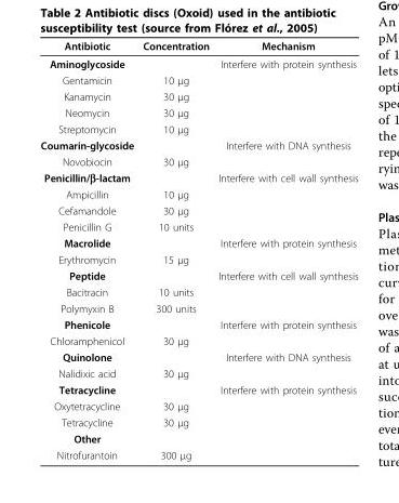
<table><thead><tr><td>Antibiotic</td><td>Concentration</td><td>Mechanism</td></tr></thead><tbody><tr><td>Aminoglycoside</td><td></td><td>Interfere with protein synthesis</td></tr><tr><td>Gentamicin</td><td>10 μg</td><td></td></tr><tr><td>Kanamycin</td><td>30 μg</td><td></td></tr><tr><td>Neomycin</td><td>30 μg</td><td></td></tr><tr><td>Streptomycin</td><td>10 μg</td><td></td></tr><tr><td>Coumarin-glycoside</td><td></td><td>Interfere with DNA synthesis</td></tr><tr><td>Novobiocin</td><td>30 μg</td><td></td></tr><tr><td>Penicillin/β-lactam</td><td></td><td>Interfere with cell wall synthesis</td></tr><tr><td>Ampicillin</td><td>10 μg</td><td></td></tr><tr><td>Cefamandole</td><td>30 μg</td><td></td></tr><tr><td>Penicillin G</td><td>10 units</td><td></td></tr><tr><td>Macrolide</td><td></td><td>Interfere with protein synthesis</td></tr><tr><td>Erythromycin</td><td>15 μg</td><td></td></tr><tr><td>Peptide</td><td></td><td>Interfere with cell wall synthesis</td></tr><tr><td>Bacitracin</td><td>10 units</td><td></td></tr><tr><td>Polymyxin B</td><td>300 units</td><td></td></tr><tr><td>Phenicole</td><td></td><td>Interfere with protein synthesis</td></tr><tr><td>Chloramphenicol</td><td>30 μg</td><td></td></tr><tr><td>Quinolone</td><td></td><td>Interfere with DNA synthesis</td></tr><tr><td>Nalidixic acid</td><td>30 μg</td><td></td></tr><tr><td>Tetracycline</td><td></td><td>Interfere with protein synthesis</td></tr><tr><td>Oxytetracycline</td><td>30 μg</td><td></td></tr><tr><td>Tetracycline</td><td>30 μg</td><td></td></tr><tr><td colspan="3">Other</td></tr><tr><td>Nitrofurantoin</td><td>300 μg</td><td></td></tr></tbody></table>